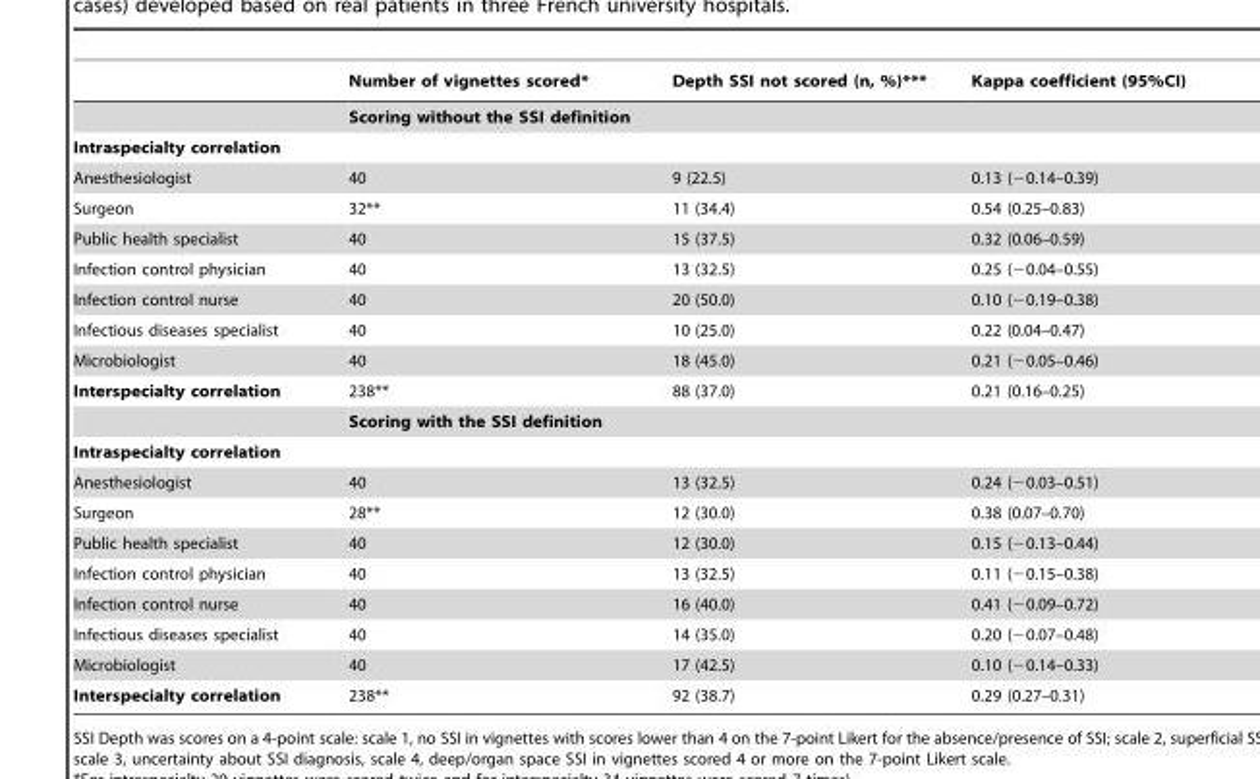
<table><thead><tr><td></td><td>Number of vignettes scored*</td><td>Depth SSI not scored (n, %)***</td><td>Kappa coefficient (95%CI)</td></tr></thead><tbody><tr><td></td><td colspan="3">Scoring without the SSI definition</td></tr><tr><td colspan="4">Intraspecialty correlation</td></tr><tr><td>Anesthesiologist</td><td>40</td><td>9 (22.5)</td><td>0.13 (−0.14–0.39)</td></tr><tr><td>Surgeon</td><td>32**</td><td>11 (34.4)</td><td>0.54 (0.25–0.83)</td></tr><tr><td>Public health specialist</td><td>40</td><td>15 (37.5)</td><td>0.32 (0.06–0.59)</td></tr><tr><td>Infection control physician</td><td>40</td><td>13 (32.5)</td><td>0.25 (−0.04–0.55)</td></tr><tr><td>Infection control nurse</td><td>40</td><td>20 (50.0)</td><td>0.10 (−0.19–0.38)</td></tr><tr><td>Infectious diseases specialist</td><td>40</td><td>10 (25.0)</td><td>0.22 (0.04–0.47)</td></tr><tr><td>Microbiologist</td><td>40</td><td>18 (45.0)</td><td>0.21 (−0.05–0.46)</td></tr><tr><td rowspan="2">Interspecialty correlation</td><td>238**</td><td>88 (37.0)</td><td>0.21 (0.16–0.25)</td></tr><tr><td colspan="3">Scoring with the SSI definition</td></tr><tr><td colspan="4">Intraspecialty correlation</td></tr><tr><td>Anesthesiologist</td><td>40</td><td>13 (32.5)</td><td>0.24 (−0.03–0.51)</td></tr><tr><td>Surgeon</td><td>28**</td><td>12 (30.0)</td><td>0.38 (0.07–0.70)</td></tr><tr><td>Public health specialist</td><td>40</td><td>12 (30.0)</td><td>0.15 (−0.13–0.44)</td></tr><tr><td>Infection control physician</td><td>40</td><td>13 (32.5)</td><td>0.11 (−0.15–0.38)</td></tr><tr><td>Infection control nurse</td><td>40</td><td>16 (40.0)</td><td>0.41 (−0.09–0.72)</td></tr><tr><td>Infectious diseases specialist</td><td>40</td><td>14 (35.0)</td><td>0.20 (−0.07–0.48)</td></tr><tr><td>Microbiologist</td><td>40</td><td>17 (42.5)</td><td>0.10 (−0.14–0.33)</td></tr><tr><td>Interspecialty correlation</td><td>238**</td><td>92 (38.7)</td><td>0.29 (0.27–0.31)</td></tr></tbody></table>